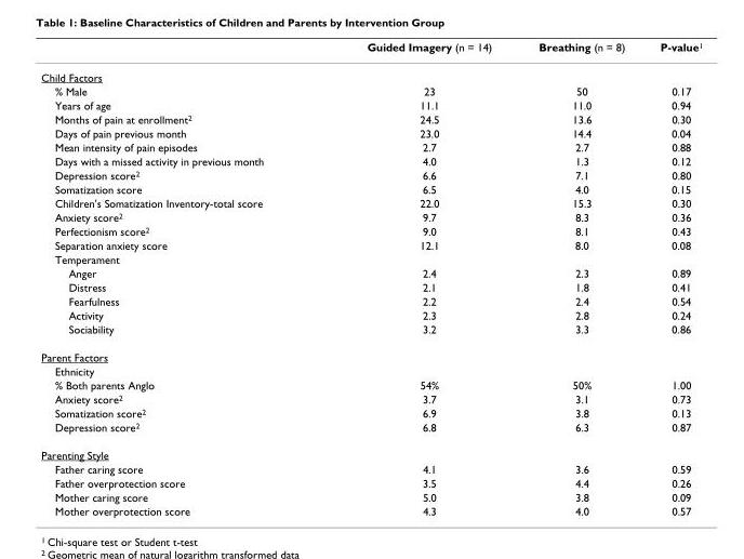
<table><thead><tr><td></td><td>Guided Imagery (n = 14)</td><td>Breathing (n = 8)</td><td>P-value<sup>1</sup></td></tr></thead><tbody><tr><td colspan="4">Child Factors</td></tr><tr><td>% Male</td><td>23</td><td>50</td><td>0.17</td></tr><tr><td>Years of age</td><td>11.1</td><td>11.0</td><td>0.94</td></tr><tr><td>Months of pain at enrollment<sup>2</sup></td><td>24.5</td><td>13.6</td><td>0.30</td></tr><tr><td>Days of pain previous month</td><td>23.0</td><td>14.4</td><td>0.04</td></tr><tr><td>Mean intensity of pain episodes</td><td>2.7</td><td>2.7</td><td>0.88</td></tr><tr><td>Days with a missed activity in previous month</td><td>4.0</td><td>1.3</td><td>0.12</td></tr><tr><td>Depression score<sup>2</sup></td><td>6.6</td><td>7.1</td><td>0.80</td></tr><tr><td>Somatization score</td><td>6.5</td><td>4.0</td><td>0.15</td></tr><tr><td>Children&#x27;s Somatization Inventory-total score</td><td>22.0</td><td>15.3</td><td>0.30</td></tr><tr><td>Anxiety score<sup>2</sup></td><td>9.7</td><td>8.3</td><td>0.36</td></tr><tr><td>Perfectionism score<sup>2</sup></td><td>9.0</td><td>8.1</td><td>0.43</td></tr><tr><td>Separation anxiety score</td><td>12.1</td><td>8.0</td><td>0.08</td></tr><tr><td colspan="4">Temperament</td></tr><tr><td>Anger</td><td>2.4</td><td>2.3</td><td>0.89</td></tr><tr><td>Distress</td><td>2.1</td><td>1.8</td><td>0.41</td></tr><tr><td>Fearfulness</td><td>2.2</td><td>2.4</td><td>0.54</td></tr><tr><td>Activity</td><td>2.3</td><td>2.8</td><td>0.24</td></tr><tr><td>Sociability</td><td>3.2</td><td>3.3</td><td>0.86</td></tr><tr><td colspan="4">Parent Factors</td></tr><tr><td colspan="4">Ethnicity</td></tr><tr><td>% Both parents Anglo</td><td>54%</td><td>50%</td><td>1.00</td></tr><tr><td>Anxiety score<sup>2</sup></td><td>3.7</td><td>3.1</td><td>0.73</td></tr><tr><td>Somatization score<sup>2</sup></td><td>6.9</td><td>3.8</td><td>0.13</td></tr><tr><td>Depression score<sup>2</sup></td><td>6.8</td><td>6.3</td><td>0.87</td></tr><tr><td colspan="4">Parenting Style</td></tr><tr><td>Father caring score</td><td>4.1</td><td>3.6</td><td>0.59</td></tr><tr><td>Father overprotection score</td><td>3.5</td><td>4.4</td><td>0.26</td></tr><tr><td>Mother caring score</td><td>5.0</td><td>3.8</td><td>0.09</td></tr><tr><td>Mother overprotection score</td><td>4.3</td><td>4.0</td><td>0.57</td></tr></tbody></table>